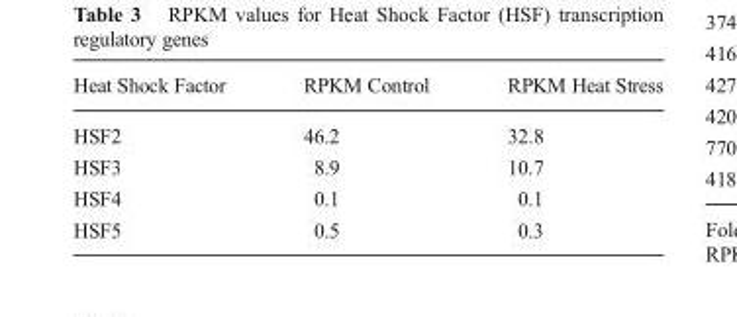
<table><thead><tr><td>Heat Shock Factor</td><td>RPKM Control</td><td>RPKM Heat Stress</td></tr></thead><tbody><tr><td>HSF2</td><td>46.2</td><td>32.8</td></tr><tr><td>HSF3</td><td>8.9</td><td>10.7</td></tr><tr><td>HSF4</td><td>0.1</td><td>0.1</td></tr><tr><td>HSF5</td><td>0.5</td><td>0.3</td></tr></tbody></table>